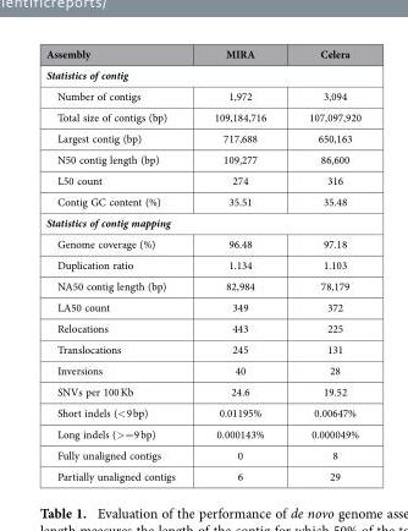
<table><thead><tr><td>Assembly</td><td>MIRA</td><td>Celera</td></tr></thead><tbody><tr><td colspan="3">Statistics of contig</td></tr><tr><td>Number of contigs</td><td>1,972</td><td>3,094</td></tr><tr><td>Total size of contigs (bp)</td><td>109,184,716</td><td>107,097,920</td></tr><tr><td>Largest contig (bp)</td><td>717,688</td><td>650,163</td></tr><tr><td>N50 contig length (bp)</td><td>109,277</td><td>86,600</td></tr><tr><td>L50 count</td><td>274</td><td>316</td></tr><tr><td>Contig GC content (%)</td><td>35.51</td><td>35.48</td></tr><tr><td colspan="3">Statistics of contig mapping</td></tr><tr><td>Genome coverage (%)</td><td>96.48</td><td>97.18</td></tr><tr><td>Duplication ratio</td><td>1.134</td><td>1.103</td></tr><tr><td>NA50 contig length (bp)</td><td>82,984</td><td>78,179</td></tr><tr><td>LA50 count</td><td>349</td><td>372</td></tr><tr><td>Relocations</td><td>443</td><td>225</td></tr><tr><td>Translocations</td><td>245</td><td>131</td></tr><tr><td>Inversions</td><td>40</td><td>28</td></tr><tr><td>SNVs per 100 Kb</td><td>24.6</td><td>19.52</td></tr><tr><td>Short indels (&lt; 9 bp)</td><td>0.01195%</td><td>0.00647%</td></tr><tr><td>Long indels (&gt; = 9 bp)</td><td>0.000143%</td><td>0.000049%</td></tr><tr><td>Fully unaligned contigs</td><td>0</td><td>8</td></tr><tr><td>Partially unaligned contigs</td><td>6</td><td>29</td></tr></tbody></table>